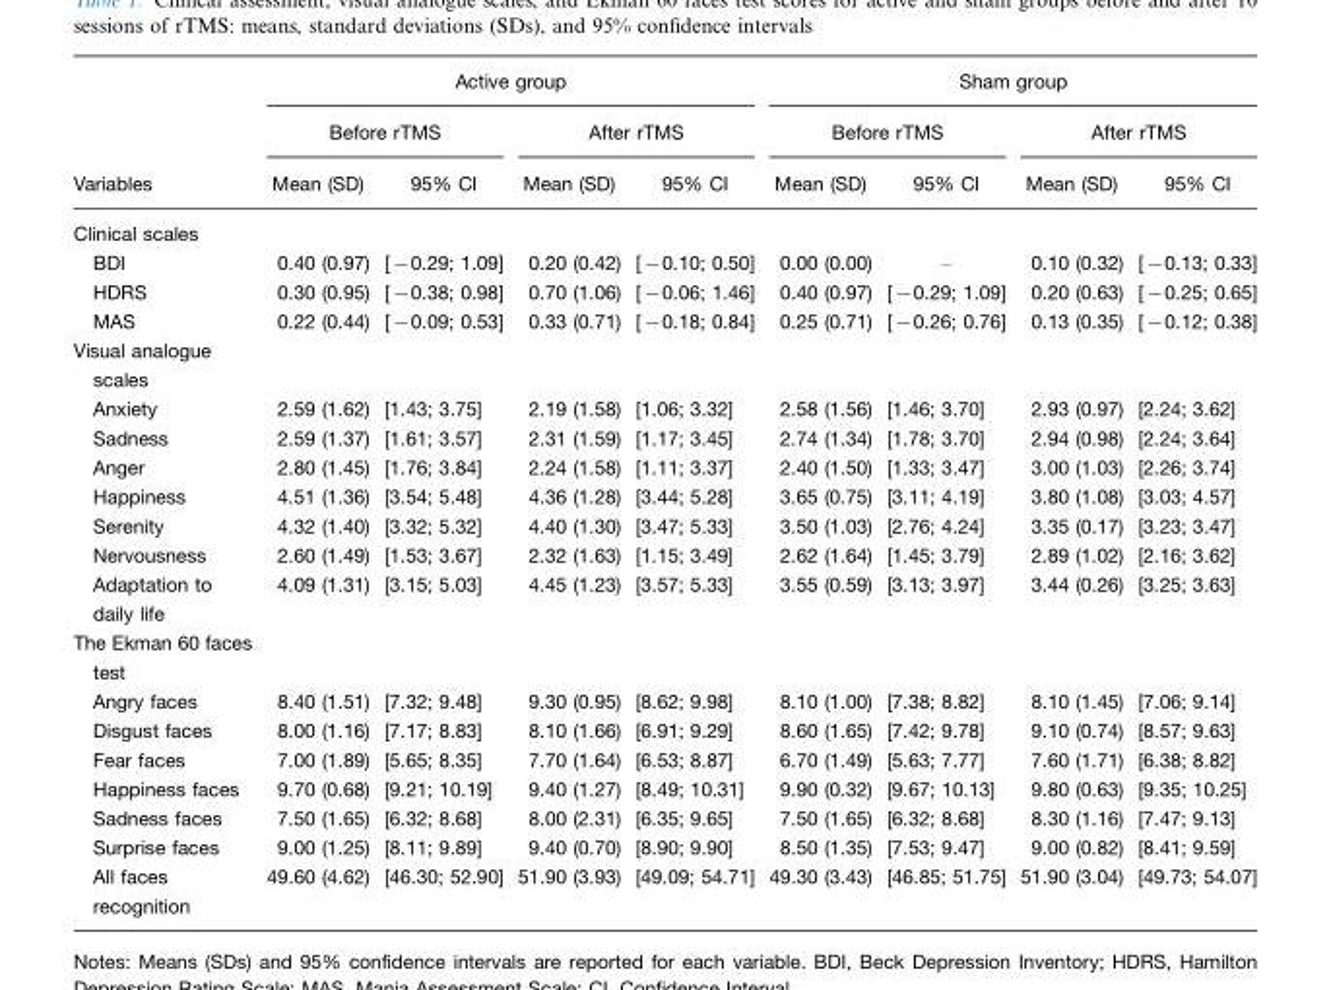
<table><thead><tr><td rowspan="3">Variables</td><td colspan="4">Active group</td><td colspan="4">Sham group</td></tr><tr><td colspan="2">Before rTMS</td><td colspan="2">After rTMS</td><td colspan="2">Before rTMS</td><td colspan="2">After rTMS</td></tr><tr><td>Mean (SD)</td><td>95% CI</td><td>Mean (SD)</td><td>95% CI</td><td>Mean (SD)</td><td>95% CI</td><td>Mean (SD)</td><td>95% CI</td></tr></thead><tbody><tr><td colspan="9">Clinical scales</td></tr><tr><td>BDI</td><td>0.40 (0.97)</td><td>[−0.29; 1.09]</td><td>0.20 (0.42)</td><td>[−0.10; 0.50]</td><td>0.00 (0.00)</td><td>–</td><td>0.10 (0.32)</td><td>[−0.13; 0.33]</td></tr><tr><td>HDRS</td><td>0.30 (0.95)</td><td>[−0.38; 0.98]</td><td>0.70 (1.06)</td><td>[−0.06; 1.46]</td><td>0.40 (0.97)</td><td>[−0.29; 1.09]</td><td>0.20 (0.63)</td><td>[−0.25; 0.65]</td></tr><tr><td>MAS</td><td>0.22 (0.44)</td><td>[−0.09; 0.53]</td><td>0.33 (0.71)</td><td>[−0.18; 0.84]</td><td>0.25 (0.71)</td><td>[−0.26; 0.76]</td><td>0.13 (0.35)</td><td>[−0.12; 0.38]</td></tr><tr><td colspan="9">Visual analogue scales</td></tr><tr><td>Anxiety</td><td>2.59 (1.62)</td><td>[1.43; 3.75]</td><td>2.19 (1.58)</td><td>[1.06; 3.32]</td><td>2.58 (1.56)</td><td>[1.46; 3.70]</td><td>2.93 (0.97)</td><td>[2.24; 3.62]</td></tr><tr><td>Sadness</td><td>2.59 (1.37)</td><td>[1.61; 3.57]</td><td>2.31 (1.59)</td><td>[1.17; 3.45]</td><td>2.74 (1.34)</td><td>[1.78; 3.70]</td><td>2.94 (0.98)</td><td>[2.24; 3.64]</td></tr><tr><td>Anger</td><td>2.80 (1.45)</td><td>[1.76; 3.84]</td><td>2.24 (1.58)</td><td>[1.11; 3.37]</td><td>2.40 (1.50)</td><td>[1.33; 3.47]</td><td>3.00 (1.03)</td><td>[2.26; 3.74]</td></tr><tr><td>Happiness</td><td>4.51 (1.36)</td><td>[3.54; 5.48]</td><td>4.36 (1.28)</td><td>[3.44; 5.28]</td><td>3.65 (0.75)</td><td>[3.11; 4.19]</td><td>3.80 (1.08)</td><td>[3.03; 4.57]</td></tr><tr><td>Serenity</td><td>4.32 (1.40)</td><td>[3.32; 5.32]</td><td>4.40 (1.30)</td><td>[3.47; 5.33]</td><td>3.50 (1.03)</td><td>[2.76; 4.24]</td><td>3.35 (0.17)</td><td>[3.23; 3.47]</td></tr><tr><td>Nervousness</td><td>2.60 (1.49)</td><td>[1.53; 3.67]</td><td>2.32 (1.63)</td><td>[1.15; 3.49]</td><td>2.62 (1.64)</td><td>[1.45; 3.79]</td><td>2.89 (1.02)</td><td>[2.16; 3.62]</td></tr><tr><td>Adaptation to daily life</td><td>4.09 (1.31)</td><td>[3.15; 5.03]</td><td>4.45 (1.23)</td><td>[3.57; 5.33]</td><td>3.55 (0.59)</td><td>[3.13; 3.97]</td><td>3.44 (0.26)</td><td>[3.25; 3.63]</td></tr><tr><td colspan="9">The Ekman 60 faces test</td></tr><tr><td>Angry faces</td><td>8.40 (1.51)</td><td>[7.32; 9.48]</td><td>9.30 (0.95)</td><td>[8.62; 9.98]</td><td>8.10 (1.00)</td><td>[7.38; 8.82]</td><td>8.10 (1.45)</td><td>[7.06; 9.14]</td></tr><tr><td>Disgust faces</td><td>8.00 (1.16)</td><td>[7.17; 8.83]</td><td>8.10 (1.66)</td><td>[6.91; 9.29]</td><td>8.60 (1.65)</td><td>[7.42; 9.78]</td><td>9.10 (0.74)</td><td>[8.57; 9.63]</td></tr><tr><td>Fear faces</td><td>7.00 (1.89)</td><td>[5.65; 8.35]</td><td>7.70 (1.64)</td><td>[6.53; 8.87]</td><td>6.70 (1.49)</td><td>[5.63; 7.77]</td><td>7.60 (1.71)</td><td>[6.38; 8.82]</td></tr><tr><td>Happiness faces</td><td>9.70 (0.68)</td><td>[9.21; 10.19]</td><td>9.40 (1.27)</td><td>[8.49; 10.31]</td><td>9.90 (0.32)</td><td>[9.67; 10.13]</td><td>9.80 (0.63)</td><td>[9.35; 10.25]</td></tr><tr><td>Sadness faces</td><td>7.50 (1.65)</td><td>[6.32; 8.68]</td><td>8.00 (2.31)</td><td>[6.35; 9.65]</td><td>7.50 (1.65)</td><td>[6.32; 8.68]</td><td>8.30 (1.16)</td><td>[7.47; 9.13]</td></tr><tr><td>Surprise faces</td><td>9.00 (1.25)</td><td>[8.11; 9.89]</td><td>9.40 (0.70)</td><td>[8.90; 9.90]</td><td>8.50 (1.35)</td><td>[7.53; 9.47]</td><td>9.00 (0.82)</td><td>[8.41; 9.59]</td></tr><tr><td>All faces recognition</td><td>49.60 (4.62)</td><td>[46.30; 52.90]</td><td>51.90 (3.93)</td><td>[49.09; 54.71]</td><td>49.30 (3.43)</td><td>[46.85; 51.75]</td><td>51.90 (3.04)</td><td>[49.73; 54.07]</td></tr></tbody></table>